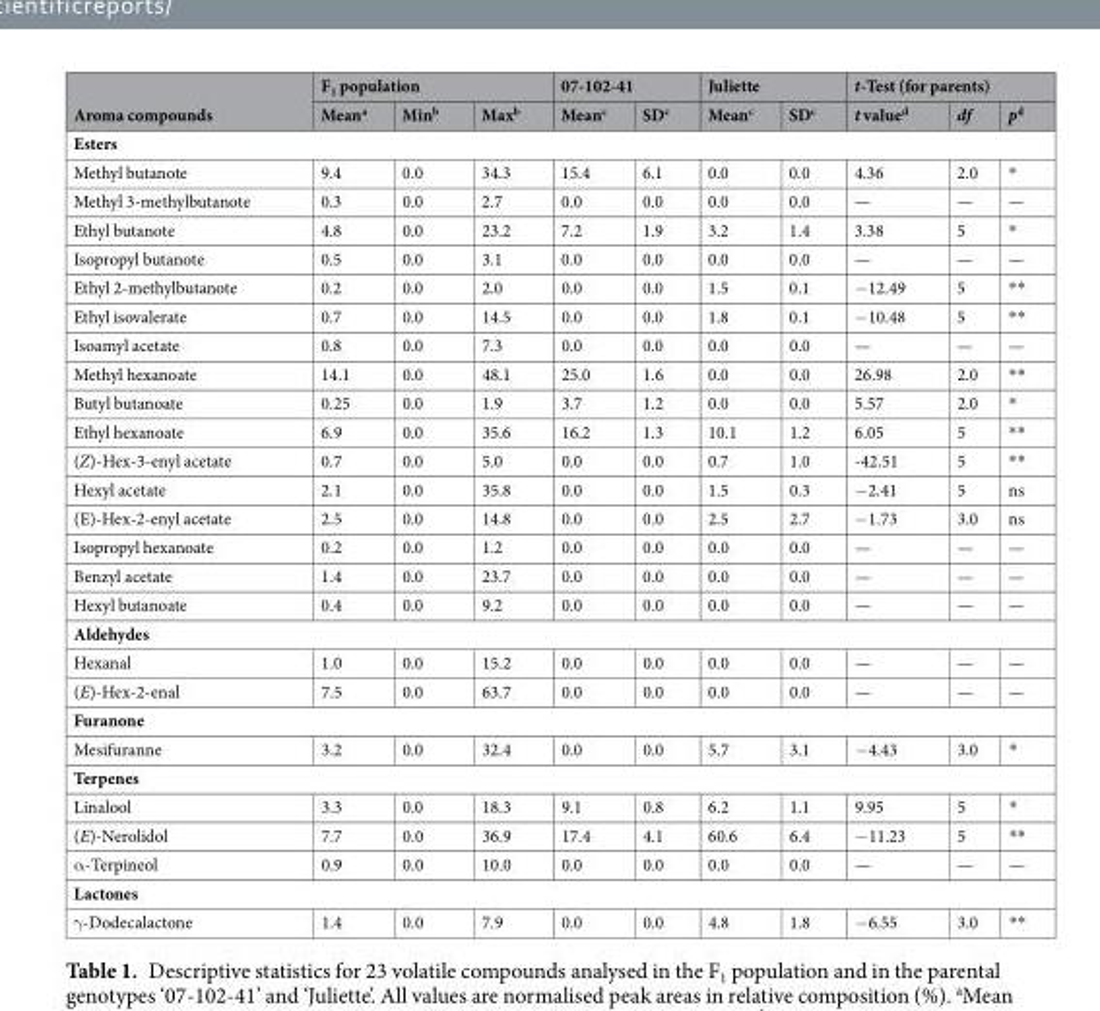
<table><thead><tr><td rowspan="2">Aroma compounds</td><td colspan="3">F<sub>1</sub> population</td><td colspan="2">07-102-41</td><td colspan="2">Juliette</td><td colspan="3">t-Test (for parents)</td></tr><tr><td>Mean<sup>a</sup></td><td>Min<sup>b</sup></td><td>Max<sup>b</sup></td><td>Mean<sup>c</sup></td><td>SD<sup>c</sup></td><td>Mean<sup>c</sup></td><td>SD<sup>c</sup></td><td>t value<sup>d</sup></td><td>df</td><td>p<sup>d</sup></td></tr></thead><tbody><tr><td colspan="11">Esters</td></tr><tr><td>Methyl butanote</td><td>9.4</td><td>0.0</td><td>34.3</td><td>15.4</td><td>6.1</td><td>0.0</td><td>0.0</td><td>4.36</td><td>2.0</td><td>*</td></tr><tr><td>Methyl 3-methylbutanote</td><td>0.3</td><td>0.0</td><td>2.7</td><td>0.0</td><td>0.0</td><td>0.0</td><td>0.0</td><td>—</td><td>—</td><td>—</td></tr><tr><td>Ethyl butanote</td><td>4.8</td><td>0.0</td><td>23.2</td><td>7.2</td><td>1.9</td><td>3.2</td><td>1.4</td><td>3.38</td><td>5</td><td>*</td></tr><tr><td>Isopropyl butanote</td><td>0.5</td><td>0.0</td><td>3.1</td><td>0.0</td><td>0.0</td><td>0.0</td><td>0.0</td><td>—</td><td>—</td><td>—</td></tr><tr><td>Ethyl 2-methylbutanote</td><td>0.2</td><td>0.0</td><td>2.0</td><td>0.0</td><td>0.0</td><td>1.5</td><td>0.1</td><td>−12.49</td><td>5</td><td>**</td></tr><tr><td>Ethyl isovalerate</td><td>0.7</td><td>0.0</td><td>14.5</td><td>0.0</td><td>0.0</td><td>1.8</td><td>0.1</td><td>−10.48</td><td>5</td><td>**</td></tr><tr><td>Isoamyl acetate</td><td>0.8</td><td>0.0</td><td>7.3</td><td>0.0</td><td>0.0</td><td>0.0</td><td>0.0</td><td>—</td><td>—</td><td>—</td></tr><tr><td>Methyl hexanoate</td><td>14.1</td><td>0.0</td><td>48.1</td><td>25.0</td><td>1.6</td><td>0.0</td><td>0.0</td><td>26.98</td><td>2.0</td><td>**</td></tr><tr><td>Butyl butanoate</td><td>0.25</td><td>0.0</td><td>1.9</td><td>3.7</td><td>1.2</td><td>0.0</td><td>0.0</td><td>5.57</td><td>2.0</td><td>*</td></tr><tr><td>Ethyl hexanoate</td><td>6.9</td><td>0.0</td><td>35.6</td><td>16.2</td><td>1.3</td><td>10.1</td><td>1.2</td><td>6.05</td><td>5</td><td>**</td></tr><tr><td>(Z)-Hex-3-enyl acetate</td><td>0.7</td><td>0.0</td><td>5.0</td><td>0.0</td><td>0.0</td><td>0.7</td><td>1.0</td><td>-42.51</td><td>5</td><td>**</td></tr><tr><td>Hexyl acetate</td><td>2.1</td><td>0.0</td><td>35.8</td><td>0.0</td><td>0.0</td><td>1.5</td><td>0.3</td><td>−2.41</td><td>5</td><td>ns</td></tr><tr><td>(E)-Hex-2-enyl acetate</td><td>2.5</td><td>0.0</td><td>14.8</td><td>0.0</td><td>0.0</td><td>2.5</td><td>2.7</td><td>−1.73</td><td>3.0</td><td>ns</td></tr><tr><td>Isopropyl hexanoate</td><td>0.2</td><td>0.0</td><td>1.2</td><td>0.0</td><td>0.0</td><td>0.0</td><td>0.0</td><td>—</td><td>—</td><td>—</td></tr><tr><td>Benzyl acetate</td><td>1.4</td><td>0.0</td><td>23.7</td><td>0.0</td><td>0.0</td><td>0.0</td><td>0.0</td><td>—</td><td>—</td><td>—</td></tr><tr><td>Hexyl butanoate</td><td>0.4</td><td>0.0</td><td>9.2</td><td>0.0</td><td>0.0</td><td>0.0</td><td>0.0</td><td>—</td><td>—</td><td>—</td></tr><tr><td colspan="11">Aldehydes</td></tr><tr><td>Hexanal</td><td>1.0</td><td>0.0</td><td>15.2</td><td>0.0</td><td>0.0</td><td>0.0</td><td>0.0</td><td>—</td><td>—</td><td>—</td></tr><tr><td>(E)-Hex-2-enal</td><td>7.5</td><td>0.0</td><td>63.7</td><td>0.0</td><td>0.0</td><td>0.0</td><td>0.0</td><td>—</td><td>—</td><td>—</td></tr><tr><td colspan="11">Furanone</td></tr><tr><td>Mesifuranne</td><td>3.2</td><td>0.0</td><td>32.4</td><td>0.0</td><td>0.0</td><td>5.7</td><td>3.1</td><td>−4.43</td><td>3.0</td><td>*</td></tr><tr><td colspan="11">Terpenes</td></tr><tr><td>Linalool</td><td>3.3</td><td>0.0</td><td>18.3</td><td>9.1</td><td>0.8</td><td>6.2</td><td>1.1</td><td>9.95</td><td>5</td><td>*</td></tr><tr><td>(E)-Nerolidol</td><td>7.7</td><td>0.0</td><td>36.9</td><td>17.4</td><td>4.1</td><td>60.6</td><td>6.4</td><td>−11.23</td><td>5</td><td>**</td></tr><tr><td>α-Terpineol</td><td>0.9</td><td>0.0</td><td>10.0</td><td>0.0</td><td>0.0</td><td>0.0</td><td>0.0</td><td>—</td><td>—</td><td>—</td></tr><tr><td colspan="11">Lactones</td></tr><tr><td>γ-Dodecalactone</td><td>1.4</td><td>0.0</td><td>7.9</td><td>0.0</td><td>0.0</td><td>4.8</td><td>1.8</td><td>−6.55</td><td>3.0</td><td>**</td></tr></tbody></table>